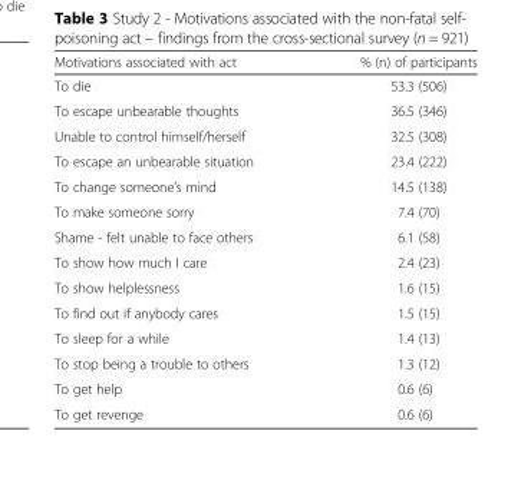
<table><thead><tr><td>Motivations associated with act</td><td>% (n) of participants</td></tr></thead><tbody><tr><td>To die</td><td>53.3 (506)</td></tr><tr><td>To escape unbearable thoughts</td><td>36.5 (346)</td></tr><tr><td>Unable to control himself/herself</td><td>32.5 (308)</td></tr><tr><td>To escape an unbearable situation</td><td>23.4 (222)</td></tr><tr><td>To change someone’s mind</td><td>14.5 (138)</td></tr><tr><td>To make someone sorry</td><td>7.4 (70)</td></tr><tr><td>Shame - felt unable to face others</td><td>6.1 (58)</td></tr><tr><td>To show how much I care</td><td>2.4 (23)</td></tr><tr><td>To show helplessness</td><td>1.6 (15)</td></tr><tr><td>To find out if anybody cares</td><td>1.5 (15)</td></tr><tr><td>To sleep for a while</td><td>1.4 (13)</td></tr><tr><td>To stop being a trouble to others</td><td>1.3 (12)</td></tr><tr><td>To get help</td><td>0.6 (6)</td></tr><tr><td>To get revenge</td><td>0.6 (6)</td></tr></tbody></table>